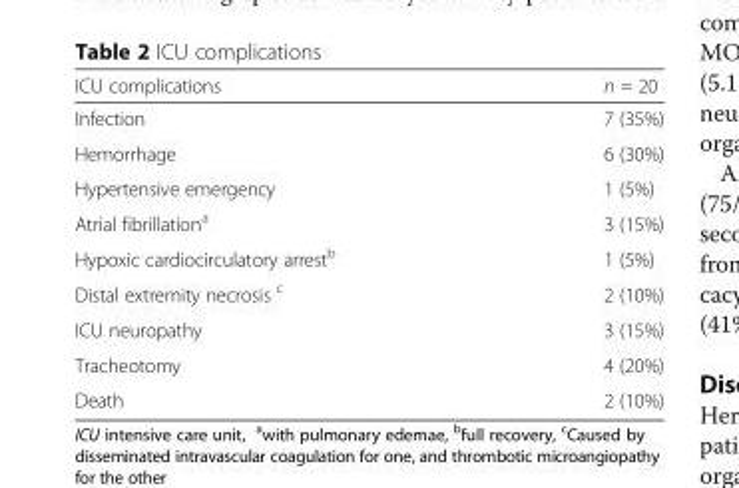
<table><thead><tr><td>ICU complications</td><td>n = 20</td></tr></thead><tbody><tr><td>Infection</td><td>7 (35%)</td></tr><tr><td>Hemorrhage</td><td>6 (30%)</td></tr><tr><td>Hypertensive emergency</td><td>1 (5%)</td></tr><tr><td>Atrial fibrillation<sup>a</sup></td><td>3 (15%)</td></tr><tr><td>Hypoxic cardiocirculatory arrest<sup>b</sup></td><td>1 (5%)</td></tr><tr><td>Distal extremity necrosis <sup>c</sup></td><td>2 (10%)</td></tr><tr><td>ICU neuropathy</td><td>3 (15%)</td></tr><tr><td>Tracheotomy</td><td>4 (20%)</td></tr><tr><td>Death</td><td>2 (10%)</td></tr></tbody></table>